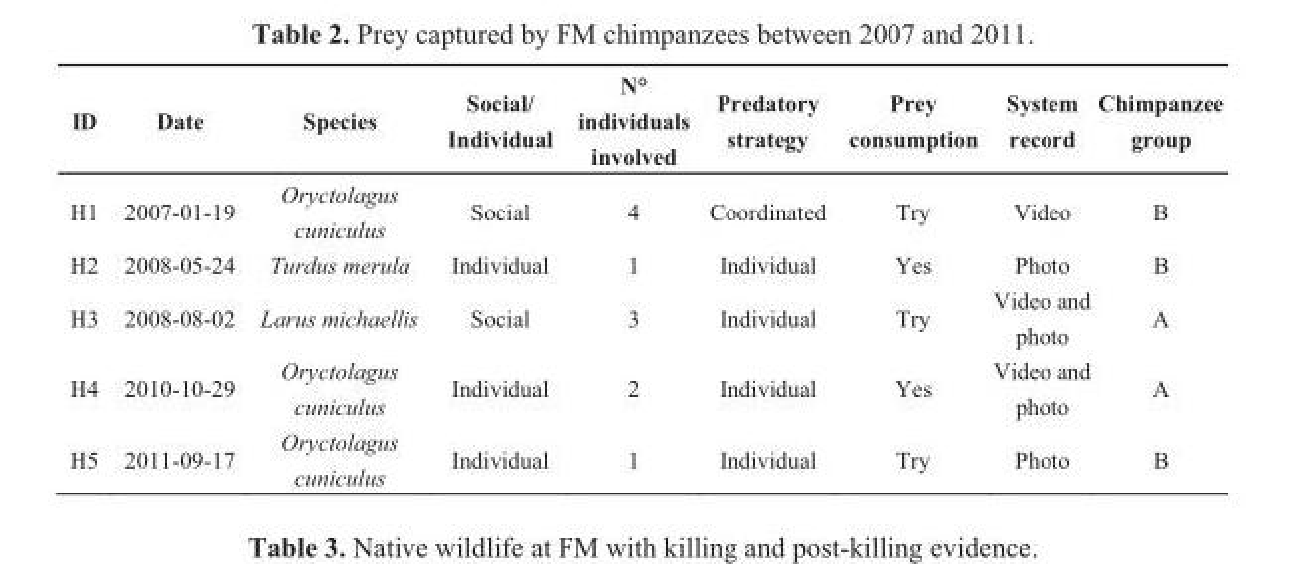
<table><thead><tr><td>ID</td><td>Date</td><td>Species</td><td>Social/ Individual</td><td>N° individuals involved</td><td>Predatory strategy</td><td>Prey consumption</td><td>System record</td><td>Chimpanzee group</td></tr></thead><tbody><tr><td>H1</td><td>2007-01-19</td><td>Oryctolagus cuniculus</td><td>Social</td><td>4</td><td>Coordinated</td><td>Try</td><td>Video</td><td>B</td></tr><tr><td>H2</td><td>2008-05-24</td><td>Turdus merula</td><td>Individual</td><td>1</td><td>Individual</td><td>Yes</td><td>Photo</td><td>B</td></tr><tr><td>H3</td><td>2008-08-02</td><td>Larus michaellis</td><td>Social</td><td>3</td><td>Individual</td><td>Try</td><td>Video and photo</td><td>A</td></tr><tr><td>H4</td><td>2010-10-29</td><td>Oryctolagus cuniculus</td><td>Individual</td><td>2</td><td>Individual</td><td>Yes</td><td>Video and photo</td><td>A</td></tr><tr><td>H5</td><td>2011-09-17</td><td>Oryctolagus cuniculus</td><td>Individual</td><td>1</td><td>Individual</td><td>Try</td><td>Photo</td><td>B</td></tr></tbody></table>